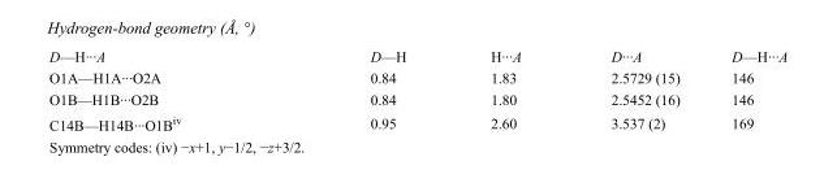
<table><tbody><tr><td>D—H···A</td><td>D—H</td><td>H···A</td><td>D···A</td><td>D—H···A</td></tr><tr><td>O1A—H1A···O2A</td><td>0.84</td><td>1.83</td><td>2.5729 (15)</td><td>146</td></tr><tr><td>O1B—H1B···O2B</td><td>0.84</td><td>1.80</td><td>2.5452 (16)</td><td>146</td></tr><tr><td>C14B—H14B···O1B<sup>iv</sup></td><td>0.95</td><td>2.60</td><td>3.537 (2)</td><td>169</td></tr></tbody></table>